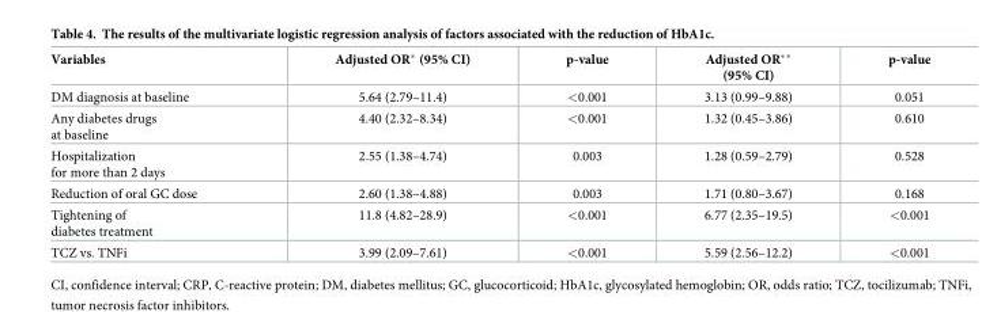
<table><thead><tr><td>Variables</td><td>Adjusted OR* (95% CI)</td><td>p-value</td><td>Adjusted OR** (95% CI)</td><td>p-value</td></tr></thead><tbody><tr><td>DM diagnosis at baseline</td><td>5.64 (2.79–11.4)</td><td>&lt;0.001</td><td>3.13 (0.99–9.88)</td><td>0.051</td></tr><tr><td>Any diabetes drugs at baseline</td><td>4.40 (2.32–8.34)</td><td>&lt;0.001</td><td>1.32 (0.45–3.86)</td><td>0.610</td></tr><tr><td>Hospitalization for more than 2 days</td><td>2.55 (1.38–4.74)</td><td>0.003</td><td>1.28 (0.59–2.79)</td><td>0.528</td></tr><tr><td>Reduction of oral GC dose</td><td>2.60 (1.38–4.88)</td><td>0.003</td><td>1.71 (0.80–3.67)</td><td>0.168</td></tr><tr><td>Tightening of diabetes treatment</td><td>11.8 (4.82–28.9)</td><td>&lt;0.001</td><td>6.77 (2.35–19.5)</td><td>&lt;0.001</td></tr><tr><td>TCZ vs. TNFi</td><td>3.99 (2.09–7.61)</td><td>&lt;0.001</td><td>5.59 (2.56–12.2)</td><td>&lt;0.001</td></tr></tbody></table>